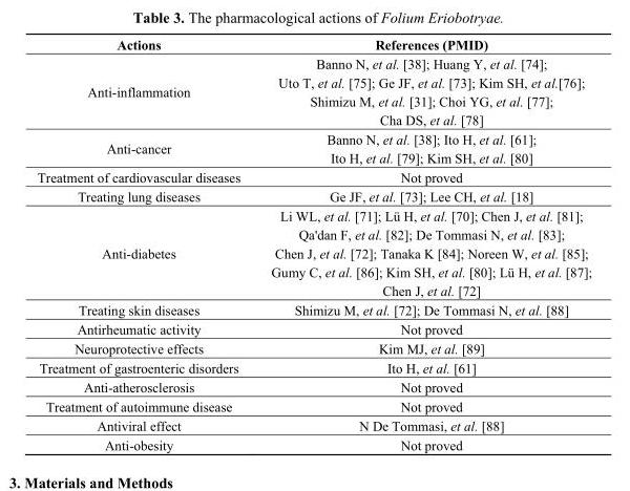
<table><thead><tr><td>Actions</td><td>References (PMID)</td></tr></thead><tbody><tr><td>Anti-inflammation</td><td>Banno N, et al. [38]; Huang Y, et al. [74]; Uto T, et al. [75]; Ge JF, et al. [73]; Kim SH, et al.[76]; Shimizu M, et al. [31]; Choi YG, et al. [77]; Cha DS, et al. [78]</td></tr><tr><td>Anti-cancer</td><td>Banno N, et al. [38]; Ito H, et al. [61]; Ito H, et al. [79]; Kim SH, et al. [80]</td></tr><tr><td>Treatment of cardiovascular diseases</td><td>Not proved</td></tr><tr><td>Treating lung diseases</td><td>Ge JF, et al. [73]; Lee CH, et al. [18]</td></tr><tr><td>Anti-diabetes</td><td>Li WL, et al. [71]; Lü H, et al. [70]; Chen J, et al. [81]; Qa&#x27;dan F, et al. [82]; De Tommasi N, et al. [83]; Chen J, et al. [72]; Tanaka K [84]; Noreen W, et al. [85]; Gumy C, et al. [86]; Kim SH, et al. [80]; Lü H, et al. [87]; Chen J, et al. [72]</td></tr><tr><td>Treating skin diseases</td><td>Shimizu M, et al. [72]; De Tommasi N, et al. [88]</td></tr><tr><td>Antirheumatic activity</td><td>Not proved</td></tr><tr><td>Neuroprotective effects</td><td>Kim MJ, et al. [89]</td></tr><tr><td>Treatment of gastroenteric disorders</td><td>Ito H, et al. [61]</td></tr><tr><td>Anti-atherosclerosis</td><td>Not proved</td></tr><tr><td>Treatment of autoimmune disease</td><td>Not proved</td></tr><tr><td>Antiviral effect</td><td>N De Tommasi, et al. [88]</td></tr><tr><td>Anti-obesity</td><td>Not proved</td></tr></tbody></table>